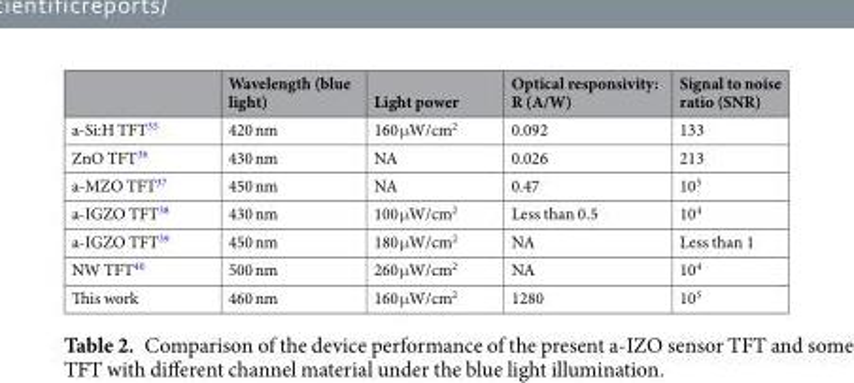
<table><thead><tr><td></td><td>Wavelength (blue light)</td><td>Light power</td><td>Optical responsivity: R (A/W)</td><td>Signal to noise ratio (SNR)</td></tr></thead><tbody><tr><td>a-Si:H TFT<sup>35</sup></td><td>420 nm</td><td>160 μW/cm<sup>2</sup></td><td>0.092</td><td>133</td></tr><tr><td>ZnO TFT<sup>36</sup></td><td>430 nm</td><td>NA</td><td>0.026</td><td>213</td></tr><tr><td>a-MZO TFT<sup>37</sup></td><td>450 nm</td><td>NA</td><td>0.47</td><td>10<sup>5</sup></td></tr><tr><td>a-IGZO TFT<sup>38</sup></td><td>430 nm</td><td>100 μW/cm<sup>2</sup></td><td>Less than 0.5</td><td>10<sup>4</sup></td></tr><tr><td>a-IGZO TFT<sup>39</sup></td><td>450 nm</td><td>180 μW/cm<sup>2</sup></td><td>NA</td><td>Less than 1</td></tr><tr><td>NW TFT<sup>40</sup></td><td>500 nm</td><td>260 μW/cm<sup>2</sup></td><td>NA</td><td>10<sup>4</sup></td></tr><tr><td>This work</td><td>460 nm</td><td>160 μW/cm<sup>2</sup></td><td>1280</td><td>10<sup>5</sup></td></tr></tbody></table>